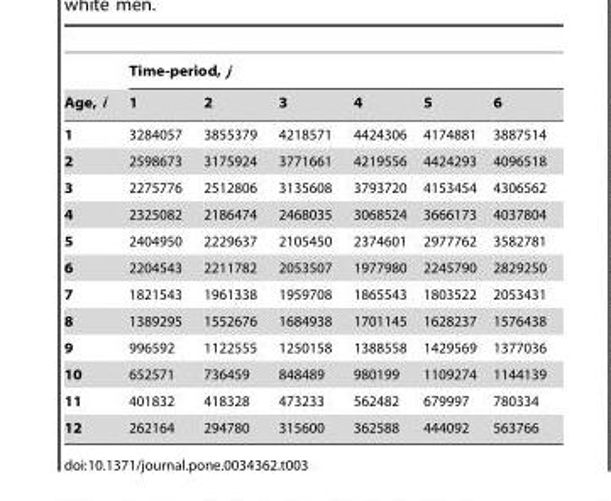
<table><thead><tr><td rowspan="2">Age, i</td><td colspan="6">Time-period, j</td></tr><tr><td>1</td><td>2</td><td>3</td><td>4</td><td>5</td><td>6</td></tr></thead><tbody><tr><td>1</td><td>3284057</td><td>3855379</td><td>4218571</td><td>4424306</td><td>4174881</td><td>3887514</td></tr><tr><td>2</td><td>2598673</td><td>3175924</td><td>3771661</td><td>4219556</td><td>4424293</td><td>4096518</td></tr><tr><td>3</td><td>2275776</td><td>2512806</td><td>3135608</td><td>3793720</td><td>4153454</td><td>4306562</td></tr><tr><td>4</td><td>2325082</td><td>2186474</td><td>2468035</td><td>3068524</td><td>3666173</td><td>4037804</td></tr><tr><td>5</td><td>2404950</td><td>2229637</td><td>2105450</td><td>2374601</td><td>2977762</td><td>3582781</td></tr><tr><td>6</td><td>2204543</td><td>2211782</td><td>2053507</td><td>1977980</td><td>2245790</td><td>2829250</td></tr><tr><td>7</td><td>1821543</td><td>1961338</td><td>1959708</td><td>1865543</td><td>1803522</td><td>2053431</td></tr><tr><td>8</td><td>1389295</td><td>1552676</td><td>1684938</td><td>1701145</td><td>1628237</td><td>1576438</td></tr><tr><td>9</td><td>996592</td><td>1122555</td><td>1250158</td><td>1388558</td><td>1429569</td><td>1377036</td></tr><tr><td>10</td><td>652571</td><td>736459</td><td>848489</td><td>980199</td><td>1109274</td><td>1144139</td></tr><tr><td>11</td><td>401832</td><td>418328</td><td>473233</td><td>562482</td><td>679997</td><td>780334</td></tr><tr><td>12</td><td>262164</td><td>294780</td><td>315600</td><td>362588</td><td>444092</td><td>563766</td></tr></tbody></table>